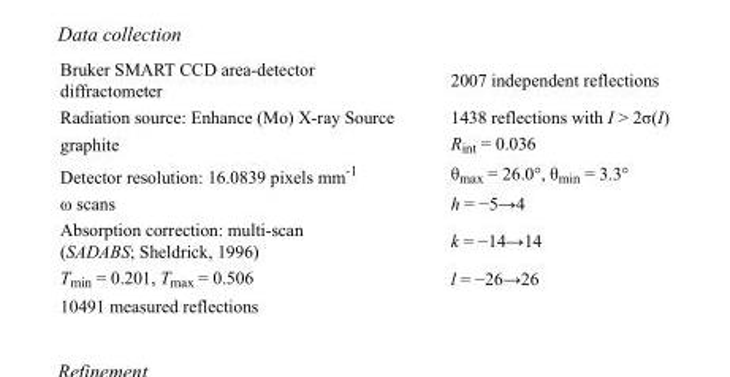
<table><tbody><tr><td>Bruker SMART CCD area-detector diffractometer</td><td>2007 independent reflections</td></tr><tr><td>Radiation source: Enhance (Mo) X-ray Source</td><td>1438 reflections with I &gt; 2σ(I)</td></tr><tr><td>graphite</td><td>R<sub>int</sub> = 0.036</td></tr><tr><td>Detector resolution: 16.0839 pixels mm<sup>-1</sup></td><td>θ<sub>max</sub> = 26.0°, θ<sub>min</sub> = 3.3°</td></tr><tr><td>ω scans</td><td>h = −5→4</td></tr><tr><td>Absorption correction: multi-scan (SADABS; Sheldrick, 1996)</td><td>k = −14→14</td></tr><tr><td>T<sub>min</sub> = 0.201, T<sub>max</sub> = 0.506</td><td>l = −26→26</td></tr><tr><td>10491 measured reflections</td><td></td></tr></tbody></table>